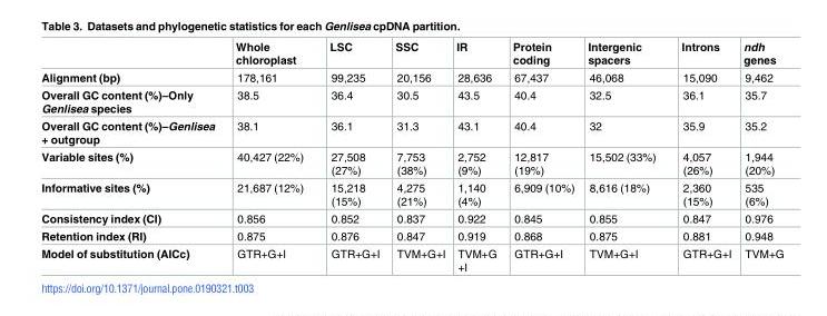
<table><thead><tr><td></td><td>Whole chloroplast</td><td>LSC</td><td>SSC</td><td>IR</td><td>Protein coding</td><td>Intergenic spacers</td><td>Introns</td><td>ndh genes</td></tr></thead><tbody><tr><td>Alignment (bp)</td><td>178,161</td><td>99,235</td><td>20,156</td><td>28,636</td><td>67,437</td><td>46,068</td><td>15,090</td><td>9,462</td></tr><tr><td>Overall GC content (%)–Only Genlisea species</td><td>38.5</td><td>36.4</td><td>30.5</td><td>43.5</td><td>40.4</td><td>32.5</td><td>36.1</td><td>35.7</td></tr><tr><td>Overall GC content (%)–Genlisea + outgroup</td><td>38.1</td><td>36.1</td><td>31.3</td><td>43.1</td><td>40.4</td><td>32</td><td>35.9</td><td>35.2</td></tr><tr><td>Variable sites (%)</td><td>40,427 (22%)</td><td>27,508 (27%)</td><td>7,753 (38%)</td><td>2,752 (9%)</td><td>12,817 (19%)</td><td>15,502 (33%)</td><td>4,057 (26%)</td><td>1,944 (20%)</td></tr><tr><td>Informative sites (%)</td><td>21,687 (12%)</td><td>15,218 (15%)</td><td>4,275 (21%)</td><td>1,140 (4%)</td><td>6,909 (10%)</td><td>8,616 (18%)</td><td>2,360 (15%)</td><td>535 (6%)</td></tr><tr><td>Consistency index (CI)</td><td>0.856</td><td>0.852</td><td>0.837</td><td>0.922</td><td>0.845</td><td>0.855</td><td>0.847</td><td>0.976</td></tr><tr><td>Retention index (RI)</td><td>0.875</td><td>0.876</td><td>0.847</td><td>0.919</td><td>0.868</td><td>0.875</td><td>0.881</td><td>0.948</td></tr><tr><td>Model of substitution (AICc)</td><td>GTR+G+I</td><td>GTR+G+I</td><td>TVM+G+I</td><td>TVM+G +I</td><td>GTR+G+I</td><td>TVM+G+I</td><td>GTR+G+I</td><td>TVM+G</td></tr></tbody></table>